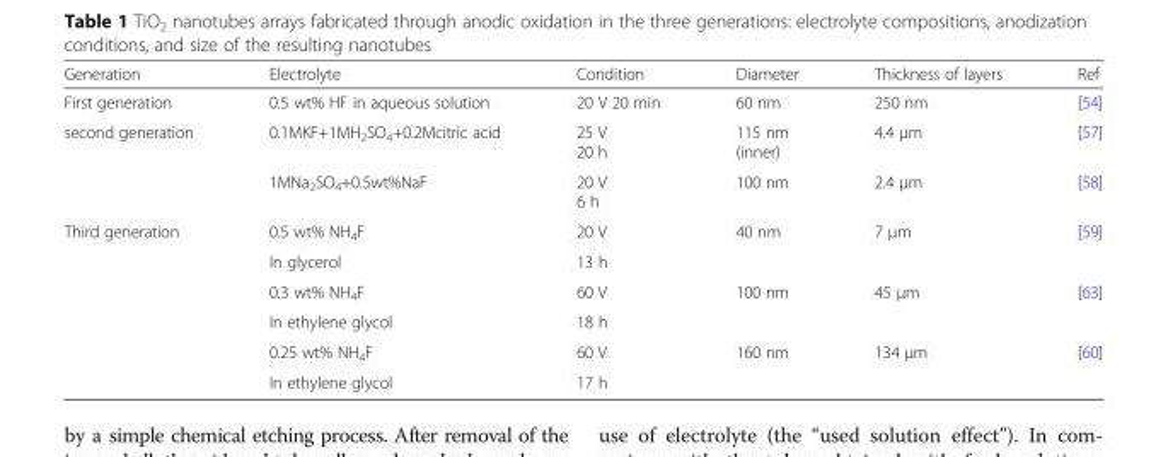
<table><thead><tr><td>Generation</td><td>Electrolyte</td><td>Condition</td><td>Diameter</td><td>Thickness of layers</td><td>Ref</td></tr></thead><tbody><tr><td>First generation</td><td>0.5 wt% HF in aqueous solution</td><td>20 V 20 min</td><td>60 nm</td><td>250 nm</td><td>[54]</td></tr><tr><td rowspan="2">second generation</td><td>0.1MKF+1MH<sub>2</sub>SO<sub>4</sub>+0.2Mcitric acid</td><td>25 V 20 h</td><td>115 nm (inner)</td><td>4.4 μm</td><td>[57]</td></tr><tr><td>1MNa<sub>2</sub>SO<sub>4</sub>+0.5wt%NaF</td><td>20 V 6 h</td><td>100 nm</td><td>2.4 μm</td><td>[58]</td></tr><tr><td rowspan="6">Third generation</td><td>0.5 wt% NH<sub>4</sub>F</td><td>20 V</td><td rowspan="2">40 nm</td><td rowspan="2">7 μm</td><td rowspan="2">[59]</td></tr><tr><td>In glycerol</td><td>13 h</td></tr><tr><td>0.3 wt% NH<sub>4</sub>F</td><td>60 V</td><td rowspan="2">100 nm</td><td rowspan="2">45 μm</td><td rowspan="2">[63]</td></tr><tr><td>In ethylene glycol</td><td>18 h</td></tr><tr><td>0.25 wt% NH<sub>4</sub>F</td><td>60 V</td><td rowspan="2">160 nm</td><td rowspan="2">134 μm</td><td rowspan="2">[60]</td></tr><tr><td>In ethylene glycol</td><td>17 h</td></tr></tbody></table>